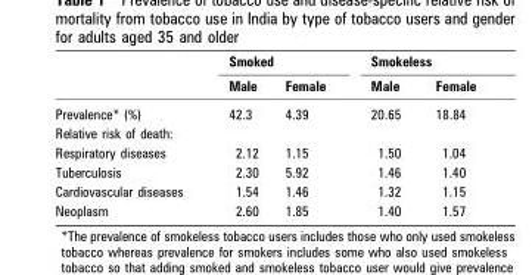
<table><thead><tr><td rowspan="2"></td><td colspan="2">Smoked</td><td colspan="2">Smokeless</td></tr><tr><td>Male</td><td>Female</td><td>Male</td><td>Female</td></tr></thead><tbody><tr><td>Prevalence* (%)</td><td>42.3</td><td>4.39</td><td>20.65</td><td>18.84</td></tr><tr><td colspan="5">Relative risk of death:</td></tr><tr><td>Respiratory diseases</td><td>2.12</td><td>1.15</td><td>1.50</td><td>1.04</td></tr><tr><td>Tuberculosis</td><td>2.30</td><td>5.92</td><td>1.46</td><td>1.40</td></tr><tr><td>Cardiovascular diseases</td><td>1.54</td><td>1.46</td><td>1.32</td><td>1.15</td></tr><tr><td>Neoplasm</td><td>2.60</td><td>1.85</td><td>1.40</td><td>1.57</td></tr></tbody></table>